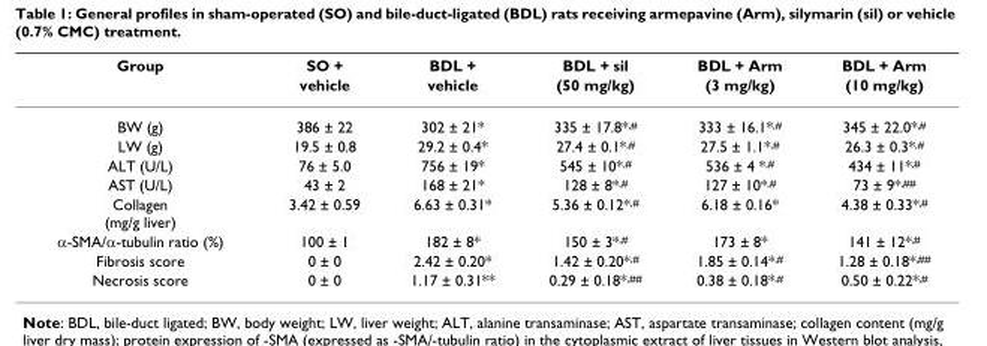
<table><thead><tr><td rowspan="2">Group</td><td rowspan="2">SO + vehicle</td><td rowspan="2">BDL + vehicle</td><td rowspan="2">BDL + sil (50 mg/kg)</td><td rowspan="2">BDL + Arm (3 mg/kg)</td><td rowspan="2">BDL + Arm (10 mg/kg)</td></tr><tr></tr></thead><tbody><tr><td>BW (g)</td><td>386 ± 22</td><td>302 ± 21*</td><td>335 ± 17.8*<sup>,#</sup></td><td>333 ± 16.1*<sup>,#</sup></td><td>345 ± 22.0*<sup>,#</sup></td></tr><tr><td>LW (g)</td><td>19.5 ± 0.8</td><td>29.2 ± 0.4*</td><td>27.4 ± 0.1*<sup>,#</sup></td><td>27.5 ± 1.1*<sup>,#</sup></td><td>26.3 ± 0.3*<sup>,#</sup></td></tr><tr><td>ALT (U/L)</td><td>76 ± 5.0</td><td>756 ± 19*</td><td>545 ± 10*<sup>,#</sup></td><td>536 ± 4 *<sup>,#</sup></td><td>434 ± 11*<sup>,#</sup></td></tr><tr><td>AST (U/L)</td><td>43 ± 2</td><td>168 ± 21*</td><td>128 ± 8*<sup>,#</sup></td><td>127 ± 10*<sup>,#</sup></td><td>73 ± 9*<sup>,##</sup></td></tr><tr><td>Collagen (mg/g liver)</td><td>3.42 ± 0.59</td><td>6.63 ± 0.31*</td><td>5.36 ± 0.12*<sup>,#</sup></td><td>6.18 ± 0.16*</td><td>4.38 ± 0.33*<sup>,#</sup></td></tr><tr><td>α-SMA/α-tubulin ratio (%)</td><td>100 ± 1</td><td>182 ± 8*</td><td>150 ± 3*<sup>,#</sup></td><td>173 ± 8*</td><td>141 ± 12*<sup>,#</sup></td></tr><tr><td>Fibrosis score</td><td>0 ± 0</td><td>2.42 ± 0.20*</td><td>1.42 ± 0.20*<sup>,#</sup></td><td>1.85 ± 0.14*<sup>,#</sup></td><td>1.28 ± 0.18*<sup>,##</sup></td></tr><tr><td>Necrosis score</td><td>0 ± 0</td><td>1.17 ± 0.31**</td><td>0.29 ± 0.18*<sup>,##</sup></td><td>0.38 ± 0.18*<sup>,#</sup></td><td>0.50 ± 0.22*<sup>,#</sup></td></tr></tbody></table>